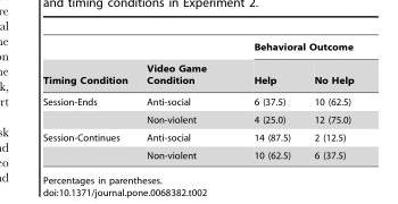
<table><thead><tr><td rowspan="2">Timing Condition</td><td rowspan="2">Video Game Condition</td><td colspan="2">Behavioral Outcome</td></tr><tr><td>Help</td><td>No Help</td></tr></thead><tbody><tr><td rowspan="2">Session-Ends</td><td>Anti-social</td><td>6 (37.5)</td><td>10 (62.5)</td></tr><tr><td>Non-violent</td><td>4 (25.0)</td><td>12 (75.0)</td></tr><tr><td rowspan="2">Session-Continues</td><td>Anti-social</td><td>14 (87.5)</td><td>2 (12.5)</td></tr><tr><td>Non-violent</td><td>10 (62.5)</td><td>6 (37.5)</td></tr></tbody></table>